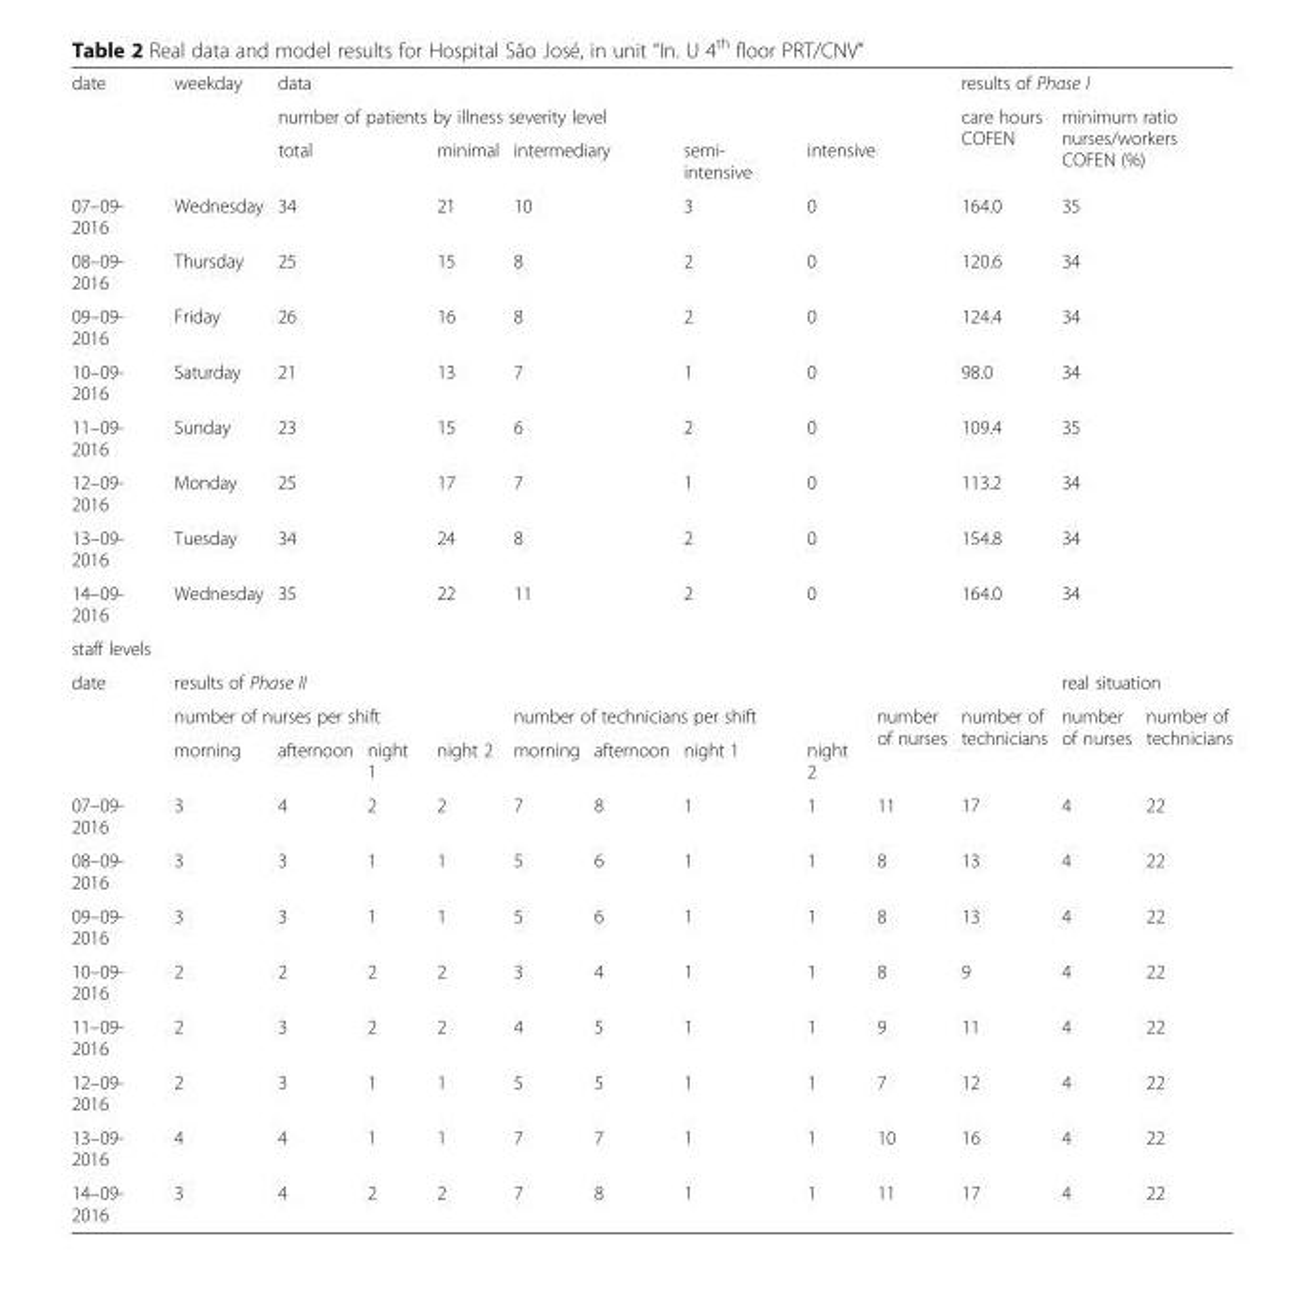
<table><tbody><tr><td rowspan="3">date</td><td rowspan="3">weekday</td><td colspan="8">data</td><td colspan="3">results of Phase I</td></tr><tr><td colspan="8">number of patients by illness severity level</td><td rowspan="2">care hours COFEN</td><td rowspan="2" colspan="2">minimum ratio nurses/workers COFEN (%)</td></tr><tr><td colspan="2">total</td><td>minimal</td><td colspan="2">intermediary</td><td>semi- intensive</td><td colspan="2">intensive</td></tr><tr><td>07–09- 2016</td><td>Wednesday</td><td colspan="2">34</td><td>21</td><td colspan="2">10</td><td>3</td><td colspan="2">0</td><td>164.0</td><td colspan="2">35</td></tr><tr><td>08–09- 2016</td><td>Thursday</td><td colspan="2">25</td><td>15</td><td colspan="2">8</td><td>2</td><td colspan="2">0</td><td>120.6</td><td colspan="2">34</td></tr><tr><td>09–09- 2016</td><td>Friday</td><td colspan="2">26</td><td>16</td><td colspan="2">8</td><td>2</td><td colspan="2">0</td><td>124.4</td><td colspan="2">34</td></tr><tr><td>10–09- 2016</td><td>Saturday</td><td colspan="2">21</td><td>13</td><td colspan="2">7</td><td>1</td><td colspan="2">0</td><td>98.0</td><td colspan="2">34</td></tr><tr><td>11–09- 2016</td><td>Sunday</td><td colspan="2">23</td><td>15</td><td colspan="2">6</td><td>2</td><td colspan="2">0</td><td>109.4</td><td colspan="2">35</td></tr><tr><td>12–09- 2016</td><td>Monday</td><td colspan="2">25</td><td>17</td><td colspan="2">7</td><td>1</td><td colspan="2">0</td><td>113.2</td><td colspan="2">34</td></tr><tr><td>13–09- 2016</td><td>Tuesday</td><td colspan="2">34</td><td>24</td><td colspan="2">8</td><td>2</td><td colspan="2">0</td><td>154.8</td><td colspan="2">34</td></tr><tr><td>14–09- 2016</td><td>Wednesday</td><td colspan="2">35</td><td>22</td><td colspan="2">11</td><td>2</td><td colspan="2">0</td><td>164.0</td><td colspan="2">34</td></tr><tr><td colspan="13">staff levels</td></tr><tr><td rowspan="3">date</td><td colspan="10">results of Phase II</td><td colspan="2">real situation</td></tr><tr><td colspan="4">number of nurses per shift</td><td colspan="4">number of technicians per shift</td><td rowspan="2">number of nurses</td><td rowspan="2">number of technicians</td><td rowspan="2">number of nurses</td><td rowspan="2">number of technicians</td></tr><tr><td>morning</td><td>afternoon</td><td>night 1</td><td>night 2</td><td>morning</td><td>afternoon</td><td>night 1</td><td>night 2</td></tr><tr><td>07–09- 2016</td><td>3</td><td>4</td><td>2</td><td>2</td><td>7</td><td>8</td><td>1</td><td>1</td><td>11</td><td>17</td><td>4</td><td>22</td></tr><tr><td>08–09- 2016</td><td>3</td><td>3</td><td>1</td><td>1</td><td>5</td><td>6</td><td>1</td><td>1</td><td>8</td><td>13</td><td>4</td><td>22</td></tr><tr><td>09–09- 2016</td><td>3</td><td>3</td><td>1</td><td>1</td><td>5</td><td>6</td><td>1</td><td>1</td><td>8</td><td>13</td><td>4</td><td>22</td></tr><tr><td>10–09- 2016</td><td>2</td><td>2</td><td>2</td><td>2</td><td>3</td><td>4</td><td>1</td><td>1</td><td>8</td><td>9</td><td>4</td><td>22</td></tr><tr><td>11–09- 2016</td><td>2</td><td>3</td><td>2</td><td>2</td><td>4</td><td>5</td><td>1</td><td>1</td><td>9</td><td>11</td><td>4</td><td>22</td></tr><tr><td>12–09- 2016</td><td>2</td><td>3</td><td>1</td><td>1</td><td>5</td><td>5</td><td>1</td><td>1</td><td>7</td><td>12</td><td>4</td><td>22</td></tr><tr><td>13–09- 2016</td><td>4</td><td>4</td><td>1</td><td>1</td><td>7</td><td>7</td><td>1</td><td>1</td><td>10</td><td>16</td><td>4</td><td>22</td></tr><tr><td>14–09- 2016</td><td>3</td><td>4</td><td>2</td><td>2</td><td>7</td><td>8</td><td>1</td><td>1</td><td>11</td><td>17</td><td>4</td><td>22</td></tr></tbody></table>